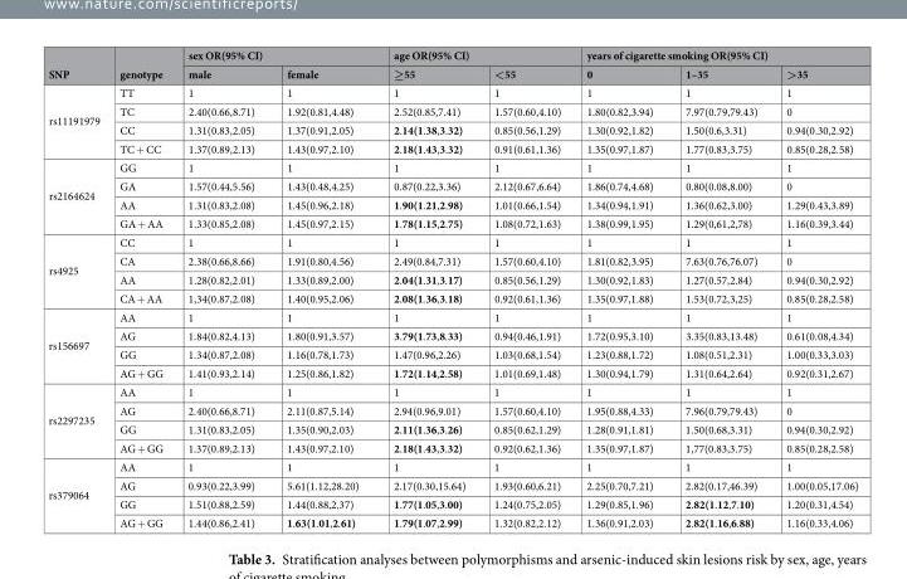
<table><thead><tr><td rowspan="2">SNP</td><td rowspan="2">genotype</td><td colspan="2">sex OR(95% CI)</td><td colspan="2">age OR(95% CI)</td><td colspan="3">years of cigarette smoking OR(95% CI)</td></tr><tr><td>male</td><td>female</td><td>≥55</td><td>&lt;55</td><td>0</td><td>1–35</td><td>&gt;35</td></tr></thead><tbody><tr><td rowspan="4">rs11191979</td><td>TT</td><td>1</td><td>1</td><td>1</td><td>1</td><td>1</td><td>1</td><td>1</td></tr><tr><td>TC</td><td>2.40(0.66,8.71)</td><td>1.92(0.81,4.48)</td><td>2.52(0.85,7.41)</td><td>1.57(0.60,4.10)</td><td>1.80(0.82,3.94)</td><td>7.97(0.79,79.43)</td><td>0</td></tr><tr><td>CC</td><td>1.31(0.83,2.05)</td><td>1.37(0.91,2.05)</td><td>2.14(1.38,3.32)</td><td>0.85(0.56,1.29)</td><td>1.30(0.92,1.82)</td><td>1.50(0.6,3.31)</td><td>0.94(0.30,2.92)</td></tr><tr><td>TC + CC</td><td>1.37(0.89,2.13)</td><td>1.43(0.97,2.10)</td><td>2.18(1.43,3.32)</td><td>0.91(0.61,1.36)</td><td>1.35(0.97,1.87)</td><td>1.77(0.83,3.75)</td><td>0.85(0.28,2.58)</td></tr><tr><td rowspan="4">rs2164624</td><td>GG</td><td>1</td><td>1</td><td>1</td><td>1</td><td>1</td><td>1</td><td>1</td></tr><tr><td>GA</td><td>1.57(0.44,5.56)</td><td>1.43(0.48,4.25)</td><td>0.87(0.22,3.36)</td><td>2.12(0.67,6.64)</td><td>1.86(0.74,4.68)</td><td>0.80(0.08,8.00)</td><td>0</td></tr><tr><td>AA</td><td>1.31(0.83,2.08)</td><td>1.45(0.96,2.18)</td><td>1.90(1.21,2.98)</td><td>1.01(0.66,1.54)</td><td>1.34(0.94,1.91)</td><td>1.36(0.62,3.00)</td><td>1.29(0.43,3.89)</td></tr><tr><td>GA + AA</td><td>1.33(0.85,2.08)</td><td>1.45(0.97,2.15)</td><td>1.78(1.15,2.75)</td><td>1.08(0.72,1.63)</td><td>1.38(0.99,1.95)</td><td>1.29(0,61,2,78)</td><td>1.16(0.39,3.44)</td></tr><tr><td rowspan="4">rs4925</td><td>CC</td><td>1</td><td>1</td><td>1</td><td>1</td><td>1</td><td>1</td><td>1</td></tr><tr><td>CA</td><td>2.38(0.66,8.66)</td><td>1.91(0.80,4.56)</td><td>2.49(0.84,7.31)</td><td>1.57(0.60,4.10)</td><td>1.81(0.82,3.95)</td><td>7.63(0.76,76.07)</td><td>0</td></tr><tr><td>AA</td><td>1.28(0.82,2.01)</td><td>1.33(0.89,2.00)</td><td>2.04(1.31,3.17)</td><td>0.85(0.56,1.29)</td><td>1.30(0.92,1.83)</td><td>1.27(0.57,2.84)</td><td>0.94(0.30,2.92)</td></tr><tr><td>CA + AA</td><td>1,34(0.87,2.08)</td><td>1.40(0.95,2.06)</td><td>2.08(1.36,3.18)</td><td>0.92(0.61,1.36)</td><td>1.35(0.97,1.88)</td><td>1.53(0.72,3,25)</td><td>0.85(0.28,2.58)</td></tr><tr><td rowspan="4">rs156697</td><td>AA</td><td>1</td><td>1</td><td>1</td><td>1</td><td>1</td><td>1</td><td>1</td></tr><tr><td>AG</td><td>1.84(0.82,4.13)</td><td>1.80(0.91,3.57)</td><td>3.79(1.73,8.33)</td><td>0.94(0.46,1.91)</td><td>1.72(0.95,3.10)</td><td>3.35(0.83,13.48)</td><td>0.61(0.08,4.34)</td></tr><tr><td>GG</td><td>1.34(0.87,2.08)</td><td>1.16(0.78,1.73)</td><td>1.47(0.96,2.26)</td><td>1.03(0.68,1.54)</td><td>1.23(0.88,1.72)</td><td>1.08(0.51,2.31)</td><td>1.00(0.33,3.03)</td></tr><tr><td>AG + GG</td><td>1.41(0.93,2.14)</td><td>1.25(0.86,1.82)</td><td>1.72(1.14,2.58)</td><td>1.01(0.69,1.48)</td><td>1.30(0.94,1.79)</td><td>1.31(0.64,2.64)</td><td>0.92(0.31,2.67)</td></tr><tr><td rowspan="4">rs2297235</td><td>AA</td><td>1</td><td>1</td><td>1</td><td>1</td><td>1</td><td>1</td><td>1</td></tr><tr><td>AG</td><td>2.40(0.66,8.71)</td><td>2.11(0.87,5.14)</td><td>2.94(0.96,9.01)</td><td>1.57(0.60,4.10)</td><td>1.95(0.88,4.33)</td><td>7.96(0.79,79.43)</td><td>0</td></tr><tr><td>GG</td><td>1.31(0.83,2.05)</td><td>1.35(0.90,2.03)</td><td>2.11(1.36,3.26)</td><td>0.85(0.62,1.29)</td><td>1.28(0.91,1.81)</td><td>1.50(0.68,3.31)</td><td>0.94(0.30,2.92)</td></tr><tr><td>AG + GG</td><td>1.37(0.89,2.13)</td><td>1.43(0.97,2.10)</td><td>2.18(1.43,3.32)</td><td>0.92(0.62,1.36)</td><td>1.35(0.97,1.87)</td><td>1,77(0.83,3.75)</td><td>0.85(0.28,2.58)</td></tr><tr><td rowspan="4">rs379064</td><td>AA</td><td>1</td><td>1</td><td>1</td><td>1</td><td>1</td><td>1</td><td>1</td></tr><tr><td>AG</td><td>0.93(0.22,3.99)</td><td>5.61(1.12,28.20)</td><td>2.17(0.30,15.64)</td><td>1.93(0.60,6.21)</td><td>2.25(0.70,7.21)</td><td>2.82(0.17,46.39)</td><td>1.00(0.05,17.06)</td></tr><tr><td>GG</td><td>1.51(0.88,2.59)</td><td>1.44(0.88,2.37)</td><td>1.77(1.05,3.00)</td><td>1.24(0.75,2.05)</td><td>1.29(0.85,1.96)</td><td>2.82(1.12,7.10)</td><td>1.20(0.31,4.54)</td></tr><tr><td>AG + GG</td><td>1.44(0.86,2.41)</td><td>1.63(1.01,2.61)</td><td>1.79(1.07,2.99)</td><td>1.32(0.82,2.12)</td><td>1.36(0.91,2.03)</td><td>2.82(1.16,6.88)</td><td>1.16(0.33,4.06)</td></tr></tbody></table>